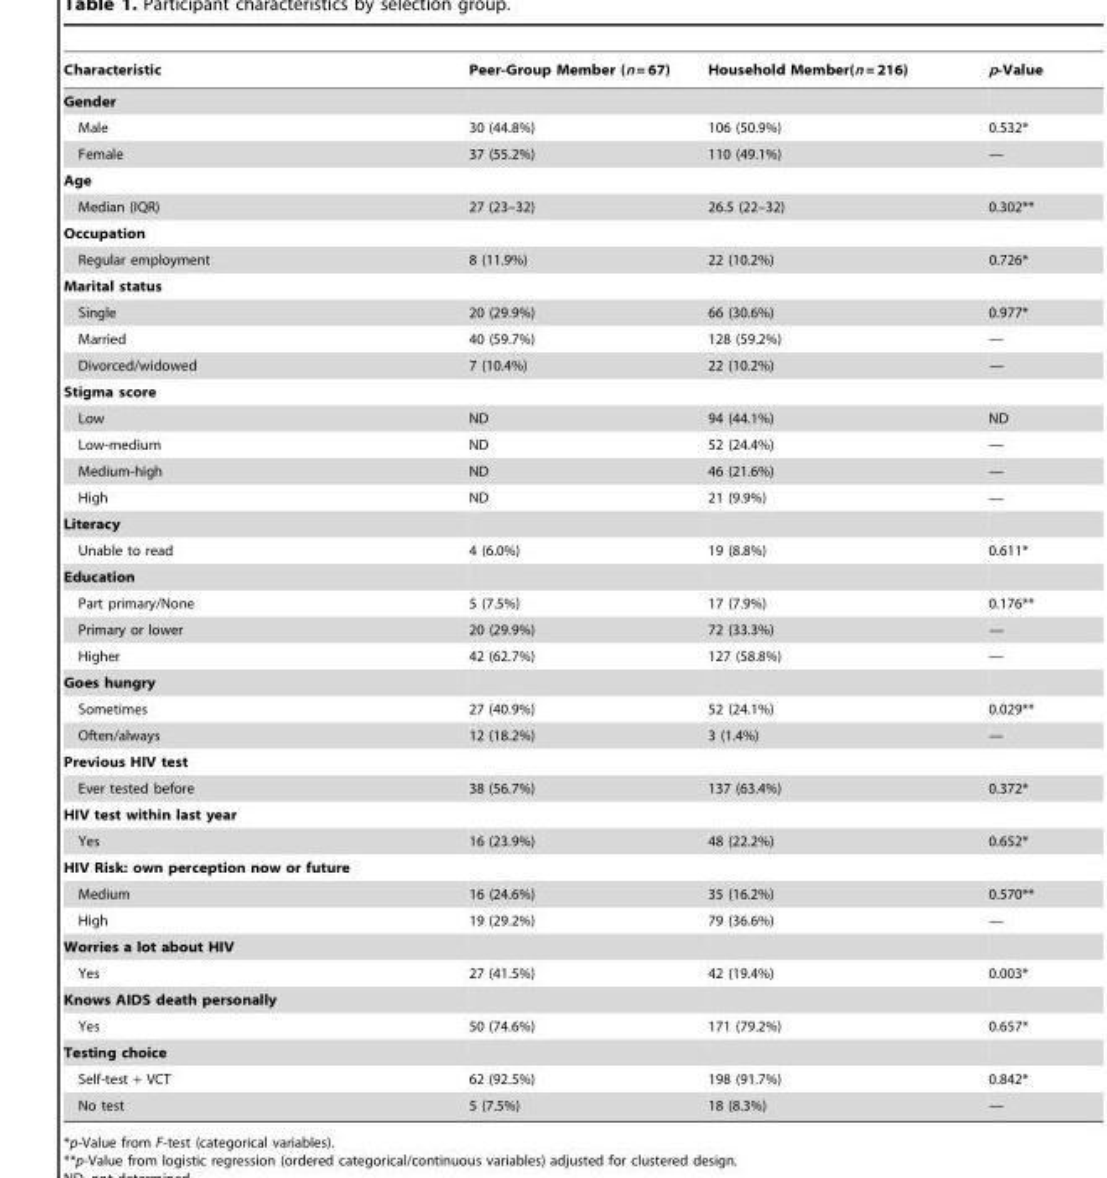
<table><thead><tr><td>Characteristic</td><td>Peer-Group Member (n = 67)</td><td>Household Member(n = 216)</td><td>p-Value</td></tr></thead><tbody><tr><td colspan="4">Gender</td></tr><tr><td>Male</td><td>30 (44.8%)</td><td>106 (50.9%)</td><td>0.532*</td></tr><tr><td>Female</td><td>37 (55.2%)</td><td>110 (49.1%)</td><td>—</td></tr><tr><td colspan="4">Age</td></tr><tr><td>Median (IQR)</td><td>27 (23–32)</td><td>26.5 (22–32)</td><td>0.302**</td></tr><tr><td colspan="4">Occupation</td></tr><tr><td>Regular employment</td><td>8 (11.9%)</td><td>22 (10.2%)</td><td>0.726*</td></tr><tr><td colspan="4">Marital status</td></tr><tr><td>Single</td><td>20 (29.9%)</td><td>66 (30.6%)</td><td>0.977*</td></tr><tr><td>Married</td><td>40 (59.7%)</td><td>128 (59.2%)</td><td>—</td></tr><tr><td>Divorced/widowed</td><td>7 (10.4%)</td><td>22 (10.2%)</td><td>—</td></tr><tr><td colspan="4">Stigma score</td></tr><tr><td>Low</td><td>ND</td><td>94 (44.1%)</td><td>ND</td></tr><tr><td>Low-medium</td><td>ND</td><td>52 (24.4%)</td><td>—</td></tr><tr><td>Medium-high</td><td>ND</td><td>46 (21.6%)</td><td>—</td></tr><tr><td>High</td><td>ND</td><td>21 (9.9%)</td><td>—</td></tr><tr><td colspan="4">Literacy</td></tr><tr><td>Unable to read</td><td>4 (6.0%)</td><td>19 (8.8%)</td><td>0.611*</td></tr><tr><td colspan="4">Education</td></tr><tr><td>Part primary/None</td><td>5 (7.5%)</td><td>17 (7.9%)</td><td>0.176**</td></tr><tr><td>Primary or lower</td><td>20 (29.9%)</td><td>72 (33.3%)</td><td>—</td></tr><tr><td>Higher</td><td>42 (62.7%)</td><td>127 (58.8%)</td><td>—</td></tr><tr><td colspan="4">Goes hungry</td></tr><tr><td>Sometimes</td><td>27 (40.9%)</td><td>52 (24.1%)</td><td>0.029**</td></tr><tr><td>Often/always</td><td>12 (18.2%)</td><td>3 (1.4%)</td><td>—</td></tr><tr><td colspan="4">Previous HIV test</td></tr><tr><td>Ever tested before</td><td>38 (56.7%)</td><td>137 (63.4%)</td><td>0.372*</td></tr><tr><td colspan="4">HIV test within last year</td></tr><tr><td>Yes</td><td>16 (23.9%)</td><td>48 (22.2%)</td><td>0.652*</td></tr><tr><td colspan="4">HIV Risk: own perception now or future</td></tr><tr><td>Medium</td><td>16 (24.6%)</td><td>35 (16.2%)</td><td>0.570**</td></tr><tr><td>High</td><td>19 (29.2%)</td><td>79 (36.6%)</td><td>—</td></tr><tr><td colspan="4">Worries a lot about HIV</td></tr><tr><td>Yes</td><td>27 (41.5%)</td><td>42 (19.4%)</td><td>0.003*</td></tr><tr><td colspan="4">Knows AIDS death personally</td></tr><tr><td>Yes</td><td>50 (74.6%)</td><td>171 (79.2%)</td><td>0.657*</td></tr><tr><td colspan="4">Testing choice</td></tr><tr><td>Self-test + VCT</td><td>62 (92.5%)</td><td>198 (91.7%)</td><td>0.842*</td></tr><tr><td>No test</td><td>5 (7.5%)</td><td>18 (8.3%)</td><td>—</td></tr></tbody></table>